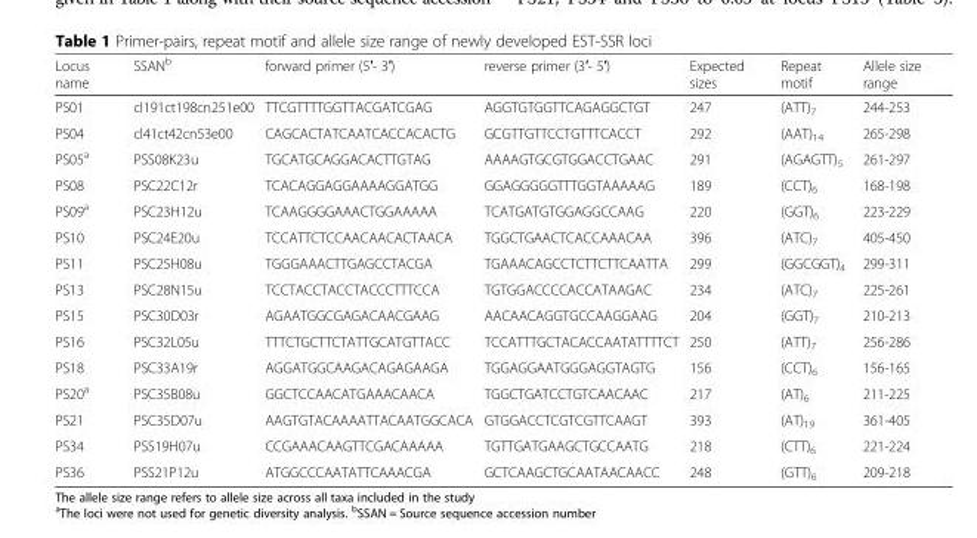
<table><thead><tr><td>Locus name</td><td>SSAN<sup>b</sup></td><td>forward primer (5′- 3′)</td><td>reverse primer (3′- 5′)</td><td>Expected sizes</td><td>Repeat motif</td><td>Allele size range</td></tr></thead><tbody><tr><td>PS01</td><td>cl191ct198cn251e00</td><td>TTCGTTTTGGTTACGATCGAG</td><td>AGGTGTGGTTCAGAGGCTGT</td><td>247</td><td>(ATT)<sub>7</sub></td><td>244-253</td></tr><tr><td>PS04</td><td>cl41ct42cn53e00</td><td>CAGCACTATCAATCACCACACTG</td><td>GCGTTGTTCCTGTTTCACCT</td><td>292</td><td>(AAT)<sub>14</sub></td><td>265-298</td></tr><tr><td>PS05<sup>a</sup></td><td>PSS08K23u</td><td>TGCATGCAGGACACTTGTAG</td><td>AAAAGTGCGTGGACCTGAAC</td><td>291</td><td>(AGAGTT)<sub>5</sub></td><td>261-297</td></tr><tr><td>PS08</td><td>PSC22C12r</td><td>TCACAGGAGGAAAAGGATGG</td><td>GGAGGGGGTTTGGTAAAAAG</td><td>189</td><td>(CCT)<sub>6</sub></td><td>168-198</td></tr><tr><td>PS09<sup>a</sup></td><td>PSC23H12u</td><td>TCAAGGGGAAACTGGAAAAA</td><td>TCATGATGTGGAGGCCAAG</td><td>220</td><td>(GGT)<sub>6</sub></td><td>223-229</td></tr><tr><td>PS10</td><td>PSC24E20u</td><td>TCCATTCTCCAACAACACTAACA</td><td>TGGCTGAACTCACCAAACAA</td><td>396</td><td>(ATC)<sub>7</sub></td><td>405-450</td></tr><tr><td>PS11</td><td>PSC25H08u</td><td>TGGGAAACTTGAGCCTACGA</td><td>TGAAACAGCCTCTTCTTCAATTA</td><td>299</td><td>(GGCGGT)<sub>4</sub></td><td>299-311</td></tr><tr><td>PS13</td><td>PSC28N15u</td><td>TCCTACCTACCTACCCTTTCCA</td><td>TGTGGACCCCACCATAAGAC</td><td>234</td><td>(ATC)<sub>7</sub></td><td>225-261</td></tr><tr><td>PS15</td><td>PSC30D03r</td><td>AGAATGGCGAGACAACGAAG</td><td>AACAACAGGTGCCAAGGAAG</td><td>204</td><td>(GGT)<sub>7</sub></td><td>210-213</td></tr><tr><td>PS16</td><td>PSC32L05u</td><td>TTTCTGCTTCTATTGCATGTTACC</td><td>TCCATTTGCTACACCAATATTTTCT</td><td>250</td><td>(ATT)<sub>7</sub></td><td>256-286</td></tr><tr><td>PS18</td><td>PSC33A19r</td><td>AGGATGGCAAGACAGAGAAGA</td><td>TGGAGGAATGGGAGGTAGTG</td><td>156</td><td>(CCT)<sub>6</sub></td><td>156-165</td></tr><tr><td>PS20<sup>a</sup></td><td>PSC35B08u</td><td>GGCTCCAACATGAAACAACA</td><td>TGGCTGATCCTGTCAACAAC</td><td>217</td><td>(AT)<sub>6</sub></td><td>211-225</td></tr><tr><td>PS21</td><td>PSC35D07u</td><td>AAGTGTACAAAATTACAATGGCACA</td><td>GTGGACCTCGTCGTTCAAGT</td><td>393</td><td>(AT)<sub>19</sub></td><td>361-405</td></tr><tr><td>PS34</td><td>PSS19H07u</td><td>CCGAAACAAGTTCGACAAAAA</td><td>TGTTGATGAAGCTGCCAATG</td><td>218</td><td>(CTT)<sub>6</sub></td><td>221-224</td></tr><tr><td>PS36</td><td>PSS21P12u</td><td>ATGGCCCAATATTCAAACGA</td><td>GCTCAAGCTGCAATAACAACC</td><td>248</td><td>(GTT)<sub>6</sub></td><td>209-218</td></tr></tbody></table>